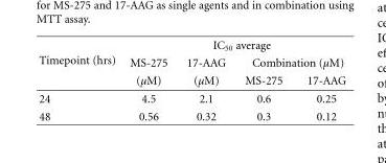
<table><thead><tr><td rowspan="3">Timepoint (hrs)</td><td colspan="4">IC<sub>50</sub> average</td></tr><tr><td rowspan="2">MS-275 (μM)</td><td rowspan="2">17-AAG (μM)</td><td colspan="2">Combination (μM)</td></tr><tr><td>MS-275</td><td>17-AAG</td></tr></thead><tbody><tr><td>24</td><td>4.5</td><td>2.1</td><td>0.6</td><td>0.25</td></tr><tr><td>48</td><td>0.56</td><td>0.32</td><td>0.3</td><td>0.12</td></tr></tbody></table>